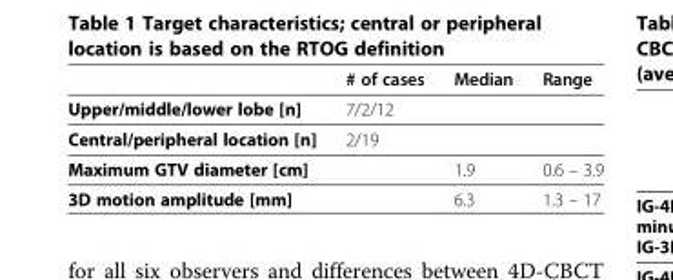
<table><thead><tr><td></td><td># of cases</td><td>Median</td><td>Range</td></tr></thead><tbody><tr><td>Upper/middle/lower lobe [n]</td><td>7/2/12</td><td></td><td></td></tr><tr><td>Central/peripheral location [n]</td><td>2/19</td><td></td><td></td></tr><tr><td>Maximum GTV diameter [cm]</td><td></td><td>1.9</td><td>0.6 – 3.9</td></tr><tr><td>3D motion amplitude [mm]</td><td></td><td>6.3</td><td>1.3 – 17</td></tr></tbody></table>